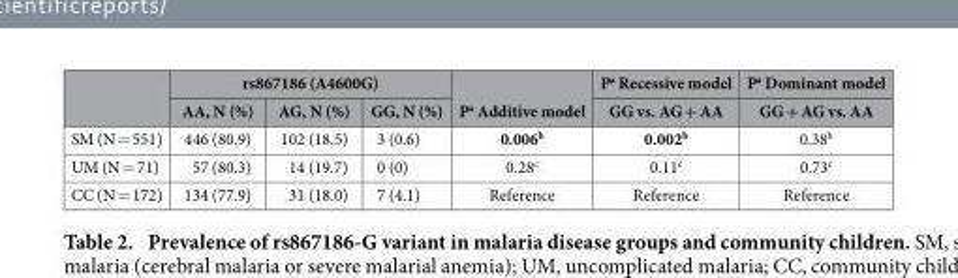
<table><thead><tr><td rowspan="2"></td><td colspan="3">rs867186 (A4600G)</td><td rowspan="2">P<sup>a</sup> Additive model</td><td rowspan="2">P<sup>a</sup> Recessive model GG vs. AG + AA</td><td rowspan="2">P<sup>a</sup> Dominant model GG + AG vs. AA</td></tr><tr><td>AA, N (%)</td><td>AG, N (%)</td><td>GG, N (%)</td></tr></thead><tbody><tr><td>SM (N = 551)</td><td>446 (80.9)</td><td>102 (18.5)</td><td>3 (0.6)</td><td>0.006<sup>b</sup></td><td>0.002<sup>b</sup></td><td>0.38<sup>b</sup></td></tr><tr><td>UM (N = 71)</td><td>57 (80.3)</td><td>14 (19.7)</td><td>0 (0)</td><td>0.28<sup>c</sup></td><td>0.11<sup>c</sup></td><td>0.73<sup>c</sup></td></tr><tr><td>CC (N = 172)</td><td>134 (77.9)</td><td>31 (18.0)</td><td>7 (4.1)</td><td>Reference</td><td>Reference</td><td>Reference</td></tr></tbody></table>